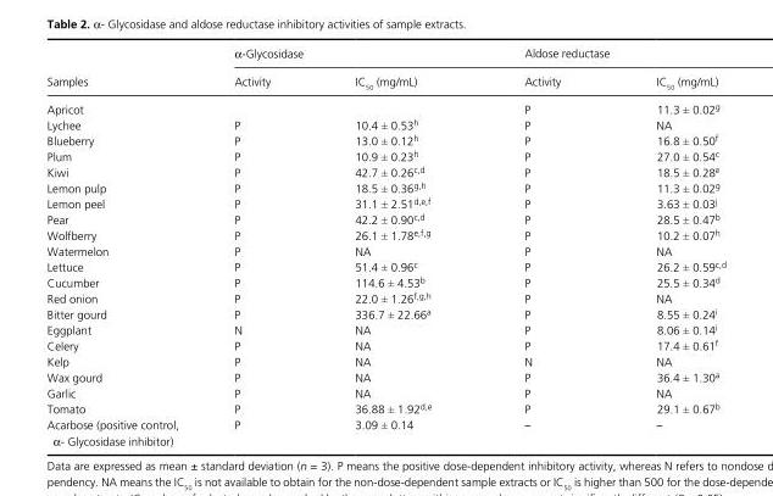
<table><thead><tr><td rowspan="2">Samples</td><td colspan="2">α- Glycosidase</td><td colspan="2">Aldose reductase</td></tr><tr><td>Activity</td><td>IC<sub>50</sub> (mg/mL)</td><td>Activity</td><td>IC<sub>50</sub> (mg/mL)</td></tr></thead><tbody><tr><td>Apricot</td><td></td><td></td><td>P</td><td>11.3 ± 0.02<sup>g</sup></td></tr><tr><td>Lychee</td><td>P</td><td>10.4 ± 0.53<sup>h</sup></td><td>P</td><td>NA</td></tr><tr><td>Blueberry</td><td>P</td><td>13.0 ± 0.12<sup>h</sup></td><td>P</td><td>16.8 ± 0.50<sup>f</sup></td></tr><tr><td>Plum</td><td>P</td><td>10.9 ± 0.23<sup>h</sup></td><td>P</td><td>27.0 ± 0.54<sup>c</sup></td></tr><tr><td>Kiwi</td><td>P</td><td>42.7 ± 0.26<sup>c,d</sup></td><td>P</td><td>18.5 ± 0.28<sup>e</sup></td></tr><tr><td>Lemon pulp</td><td>P</td><td>18.5 ± 0.36<sup>g,h</sup></td><td>P</td><td>11.3 ± 0.02<sup>g</sup></td></tr><tr><td>Lemon peel</td><td>P</td><td>31.1 ± 2.51<sup>d,e,f</sup></td><td>P</td><td>3.63 ± 0.03<sup>j</sup></td></tr><tr><td>Pear</td><td>P</td><td>42.2 ± 0.90<sup>c,d</sup></td><td>P</td><td>28.5 ± 0.47<sup>b</sup></td></tr><tr><td>Wolfberry</td><td>P</td><td>26.1 ± 1.78<sup>e,f,g</sup></td><td>P</td><td>10.2 ± 0.07<sup>h</sup></td></tr><tr><td>Watermelon</td><td>P</td><td>NA</td><td>P</td><td>NA</td></tr><tr><td>Lettuce</td><td>P</td><td>51.4 ± 0.96<sup>c</sup></td><td>P</td><td>26.2 ± 0.59<sup>c,d</sup></td></tr><tr><td>Cucumber</td><td>P</td><td>114.6 ± 4.53<sup>b</sup></td><td>P</td><td>25.5 ± 0.34<sup>d</sup></td></tr><tr><td>Red onion</td><td>P</td><td>22.0 ± 1.26<sup>f,g,h</sup></td><td>P</td><td>NA</td></tr><tr><td>Bitter gourd</td><td>P</td><td>336.7 ± 22.66<sup>a</sup></td><td>P</td><td>8.55 ± 0.24<sup>i</sup></td></tr><tr><td>Eggplant</td><td>N</td><td>NA</td><td>P</td><td>8.06 ± 0.14<sup>i</sup></td></tr><tr><td>Celery</td><td>P</td><td>NA</td><td>P</td><td>17.4 ± 0.61<sup>f</sup></td></tr><tr><td>Kelp</td><td>P</td><td>NA</td><td>N</td><td>NA</td></tr><tr><td>Wax gourd</td><td>P</td><td>NA</td><td>P</td><td>36.4 ± 1.30<sup>a</sup></td></tr><tr><td>Garlic</td><td>P</td><td>NA</td><td>P</td><td>NA</td></tr><tr><td>Tomato</td><td>P</td><td>36.88 ± 1.92<sup>d,e</sup></td><td>P</td><td>29.1 ± 0.67<sup>b</sup></td></tr><tr><td>Acarbose (positive control, α- Glycosidase inhibitor)</td><td>P</td><td>3.09 ± 0.14</td><td>–</td><td>–</td></tr></tbody></table>